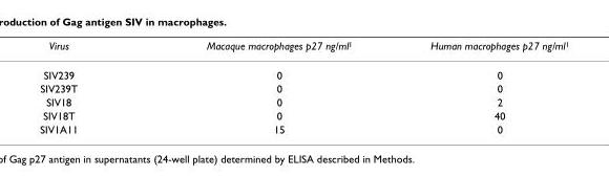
<table><thead><tr><td>Virus</td><td>Macaque macrophages p27 ng/ml<sup>1</sup></td><td>Human macrophages p27 ng/ml<sup>1</sup></td></tr></thead><tbody><tr><td>SIV239</td><td>0</td><td>0</td></tr><tr><td>SIV239T</td><td>0</td><td>0</td></tr><tr><td>SIV18</td><td>0</td><td>2</td></tr><tr><td>SIV18T</td><td>0</td><td>40</td></tr><tr><td>SIV1A11</td><td>15</td><td>0</td></tr></tbody></table>